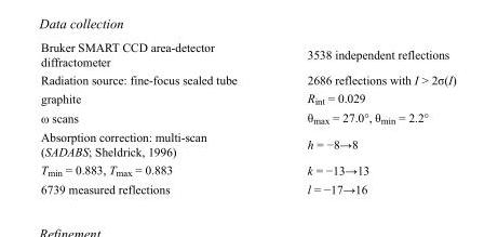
<table><tbody><tr><td>Bruker SMART CCD area-detector diffractometer</td><td>3538 independent reflections</td></tr><tr><td>Radiation source: fine-focus sealed tube</td><td>2686 reflections with I &gt; 2σ(I)</td></tr><tr><td>graphite</td><td>R<sub>int</sub> = 0.029</td></tr><tr><td>ω scans</td><td>θ<sub>max</sub> = 27.0°, θ<sub>min</sub> = 2.2°</td></tr><tr><td>Absorption correction: multi-scan (SADABS; Sheldrick, 1996)</td><td>h = −8→8</td></tr><tr><td>T<sub>min</sub> = 0.883, T<sub>max</sub> = 0.883</td><td>k = −13→13</td></tr><tr><td>6739 measured reflections</td><td>l = −17→16</td></tr></tbody></table>